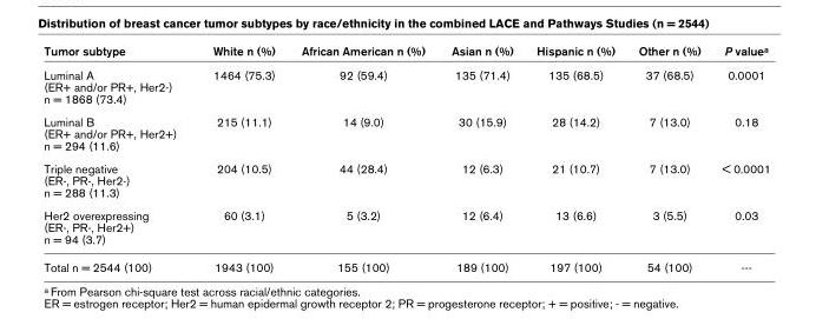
<table><thead><tr><td>Tumor subtype</td><td>White n (%)</td><td>African American n (%)</td><td>Asian n (%)</td><td>Hispanic n (%)</td><td>Other n (%)</td><td>P value<sup>a</sup></td></tr></thead><tbody><tr><td>Luminal A (ER+ and/or PR+, Her2-) n = 1868 (73.4)</td><td>1464 (75.3)</td><td>92 (59.4)</td><td>135 (71.4)</td><td>135 (68.5)</td><td>37 (68.5)</td><td>0.0001</td></tr><tr><td>Luminal B (ER+ and/or PR+, Her2+) n = 294 (11.6)</td><td>215 (11.1)</td><td>14 (9.0)</td><td>30 (15.9)</td><td>28 (14.2)</td><td>7 (13.0)</td><td>0.18</td></tr><tr><td>Triple negative (ER-, PR-, Her2-) n = 288 (11.3)</td><td>204 (10.5)</td><td>44 (28.4)</td><td>12 (6.3)</td><td>21 (10.7)</td><td>7 (13.0)</td><td>&lt; 0.0001</td></tr><tr><td>Her2 overexpressing (ER-, PR-, Her2+) n = 94 (3.7)</td><td>60 (3.1)</td><td>5 (3.2)</td><td>12 (6.4)</td><td>13 (6.6)</td><td>3 (5.5)</td><td>0.03</td></tr><tr><td>Total n = 2544 (100)</td><td>1943 (100)</td><td>155 (100)</td><td>189 (100)</td><td>197 (100)</td><td>54 (100)</td><td>---</td></tr></tbody></table>